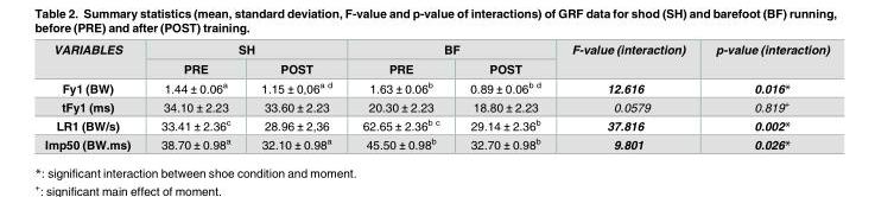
<table><thead><tr><td rowspan="2">VARIABLES</td><td colspan="2">SH</td><td colspan="2">BF</td><td rowspan="2">F-value (interaction)</td><td rowspan="2">p-value (interaction)</td></tr><tr><td>PRE</td><td>POST</td><td>PRE</td><td>POST</td></tr></thead><tbody><tr><td>Fy1 (BW)</td><td>1.44 ± 0.06<sup>a</sup></td><td>1.15 ± 0,06<sup>a d</sup></td><td>1.63 ± 0.06<sup>b</sup></td><td>0.89 ± 0.06<sup>b d</sup></td><td>12.616</td><td>0.016*</td></tr><tr><td>tFy1 (ms)</td><td>34.10 ± 2.23</td><td>33.60 ± 2.23</td><td>20.30 ± 2.23</td><td>18.80 ± 2.23</td><td>0.0579</td><td>0.819<sup>+</sup></td></tr><tr><td>LR1 (BW/s)</td><td>33.41 ± 2.36<sup>c</sup></td><td>28.96 ± 2,36</td><td>62.65 ± 2.36<sup>b c</sup></td><td>29.14 ± 2.36<sup>b</sup></td><td>37.816</td><td>0.002*</td></tr><tr><td>Imp50 (BW.ms)</td><td>38.70 ± 0.98<sup>a</sup></td><td>32.10 ± 0.98<sup>a</sup></td><td>45.50 ± 0.98<sup>b</sup></td><td>32.70 ± 0.98<sup>b</sup></td><td>9.801</td><td>0.026*</td></tr></tbody></table>